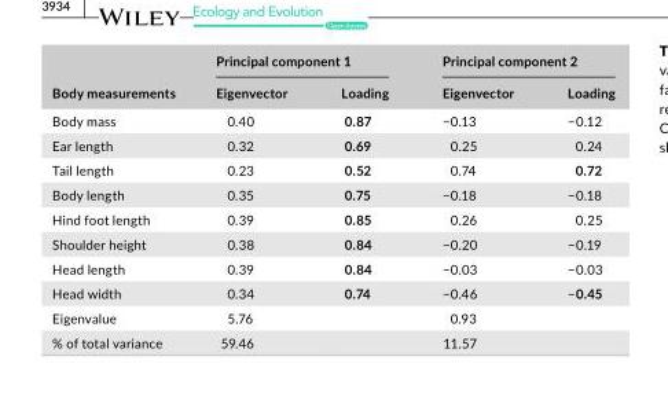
<table><thead><tr><td rowspan="2">Body measurements</td><td colspan="2">Principal component 1</td><td colspan="2">Principal component 2</td></tr><tr><td>Eigenvector</td><td>Loading</td><td>Eigenvector</td><td>Loading</td></tr></thead><tbody><tr><td>Body mass</td><td>0.40</td><td>0.87</td><td>−0.13</td><td>−0.12</td></tr><tr><td>Ear length</td><td>0.32</td><td>0.69</td><td>0.25</td><td>0.24</td></tr><tr><td>Tail length</td><td>0.23</td><td>0.52</td><td>0.74</td><td>0.72</td></tr><tr><td>Body length</td><td>0.35</td><td>0.75</td><td>−0.18</td><td>−0.18</td></tr><tr><td>Hind foot length</td><td>0.39</td><td>0.85</td><td>0.26</td><td>0.25</td></tr><tr><td>Shoulder height</td><td>0.38</td><td>0.84</td><td>−0.20</td><td>−0.19</td></tr><tr><td>Head length</td><td>0.39</td><td>0.84</td><td>−0.03</td><td>−0.03</td></tr><tr><td>Head width</td><td>0.34</td><td>0.74</td><td>−0.46</td><td>−0.45</td></tr><tr><td>Eigenvalue</td><td>5.76</td><td></td><td>0.93</td><td></td></tr><tr><td>% of total variance</td><td>59.46</td><td></td><td>11.57</td><td></td></tr></tbody></table>